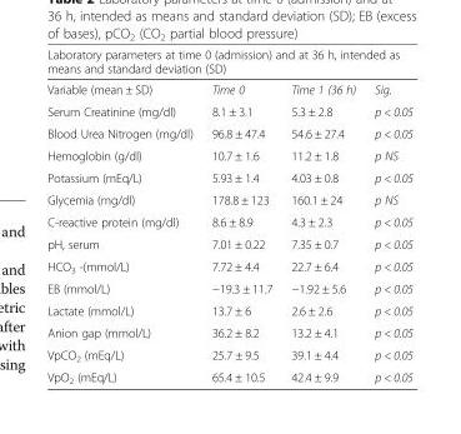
<table><thead><tr><td colspan="4">Laboratory parameters at time 0 (admission) and at 36 h, intended as means and standard deviation (SD)</td></tr><tr><td>Variable (mean ± SD)</td><td>Time 0</td><td>Time 1 (36 h)</td><td>Sig.</td></tr></thead><tbody><tr><td>Serum Creatinine (mg/dl)</td><td>8.1 ± 3.1</td><td>5.3 ± 2.8</td><td>p &lt; 0.05</td></tr><tr><td>Blood Urea Nitrogen (mg/dl)</td><td>96.8 ± 47.4</td><td>54.6 ± 27.4</td><td>p &lt; 0.05</td></tr><tr><td>Hemoglobin (g/dl)</td><td>10.7 ± 1.6</td><td>11.2 ± 1.8</td><td>p NS</td></tr><tr><td>Potassium (mEq/L)</td><td>5.93 ± 1.4</td><td>4.03 ± 0.8</td><td>p &lt; 0.05</td></tr><tr><td>Glycemia (mg/dl)</td><td>178.8 ± 123</td><td>160.1 ± 24</td><td>p NS</td></tr><tr><td>C-reactive protein (mg/dl)</td><td>8.6 ± 8.9</td><td>4.3 ± 2.3</td><td>p &lt; 0.05</td></tr><tr><td>pH, serum</td><td>7.01 ± 0.22</td><td>7.35 ± 0.7</td><td>p &lt; 0.05</td></tr><tr><td>HCO<sub>3</sub> -(mmol/L)</td><td>7.72 ± 4.4</td><td>22.7 ± 6.4</td><td>p &lt; 0.05</td></tr><tr><td>EB (mmol/L)</td><td>−19.3 ± 11.7</td><td>−1.92 ± 5.6</td><td>p &lt; 0.05</td></tr><tr><td>Lactate (mmol/L)</td><td>13.7 ± 6</td><td>2.6 ± 2.6</td><td>p &lt; 0.05</td></tr><tr><td>Anion gap (mmol/L)</td><td>36.2 ± 8.2</td><td>13.2 ± 4.1</td><td>p &lt; 0.05</td></tr><tr><td>VpCO<sub>2</sub> (mEq/L)</td><td>25.7 ± 9.5</td><td>39.1 ± 4.4</td><td>p &lt; 0.05</td></tr><tr><td>VpO<sub>2</sub> (mEq/L)</td><td>65.4 ± 10.5</td><td>42.4 ± 9.9</td><td>p &lt; 0.05</td></tr></tbody></table>